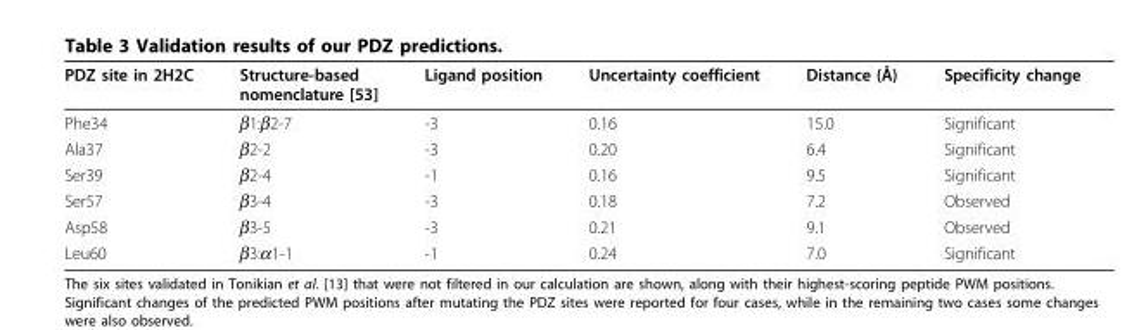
<table><thead><tr><td>PDZ site in 2H2C</td><td>Structure-based nomenclature [53]</td><td>Ligand position</td><td>Uncertainty coefficient</td><td>Distance (Å)</td><td>Specificity change</td></tr></thead><tbody><tr><td>Phe34</td><td>β1:β2-7</td><td>-3</td><td>0.16</td><td>15.0</td><td>Significant</td></tr><tr><td>Ala37</td><td>β2-2</td><td>-3</td><td>0.20</td><td>6.4</td><td>Significant</td></tr><tr><td>Ser39</td><td>β2-4</td><td>-1</td><td>0.16</td><td>9.5</td><td>Significant</td></tr><tr><td>Ser57</td><td>β3-4</td><td>-3</td><td>0.18</td><td>7.2</td><td>Observed</td></tr><tr><td>Asp58</td><td>β3-5</td><td>-3</td><td>0.21</td><td>9.1</td><td>Observed</td></tr><tr><td>Leu60</td><td>β3:α1-1</td><td>-1</td><td>0.24</td><td>7.0</td><td>Significant</td></tr></tbody></table>